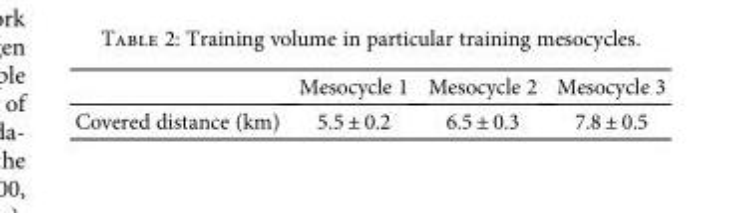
<table><thead><tr><td></td><td>Mesocycle 1</td><td>Mesocycle 2</td><td>Mesocycle 3</td></tr></thead><tbody><tr><td>Covered distance (km)</td><td>5.5 ± 0.2</td><td>6.5 ± 0.3</td><td>7.8 ± 0.5</td></tr></tbody></table>